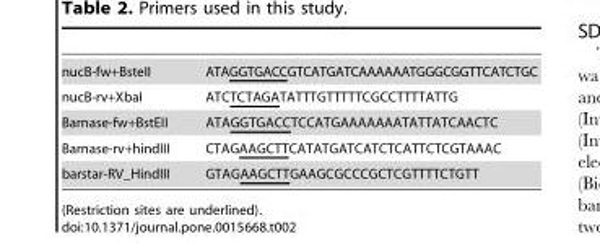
<table><tbody><tr><td>nucB-fw+BsteII</td><td>ATAGGTGACCGTCATGATCAAAAAATGGGCGGTTCATCTGC</td></tr><tr><td>nucB-rv+XbaI</td><td>ATCTCTAGATATTTGTTTTTCGCCTTTTATTG</td></tr><tr><td>Barnase-fw+BstEII</td><td>ATAGGTGACCTCCATGAAAAAAATATTATCAACTC</td></tr><tr><td>Barnase-rv+hindIII</td><td>CTAGAAGCTTCATATGATCATCTCATTCTCGTAAAC</td></tr><tr><td>barstar-RV_HindIII</td><td>GTAGAAGCTTGAAGCGCCCGCTCGTTTTCTGTT</td></tr></tbody></table>